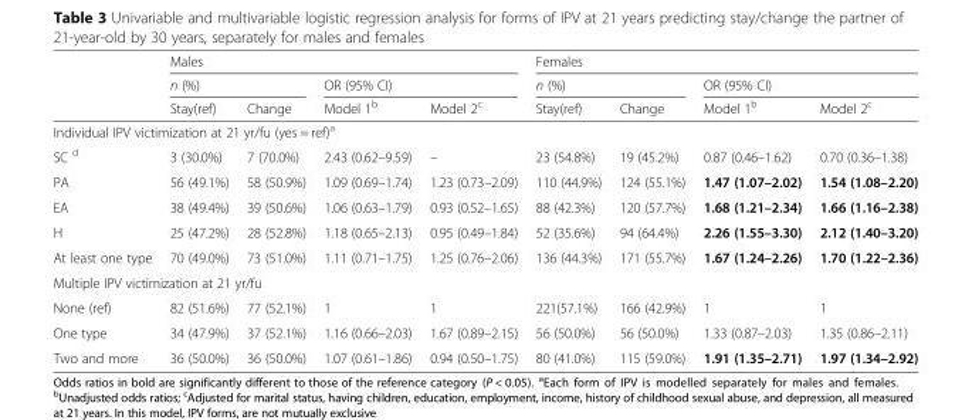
<table><thead><tr><td rowspan="3"></td><td colspan="4">Males</td><td colspan="4">Females</td></tr><tr><td colspan="2">n (%)</td><td colspan="2">OR (95% CI)</td><td colspan="2">n (%)</td><td colspan="2">OR (95% CI)</td></tr><tr><td>Stay(ref)</td><td>Change</td><td>Model 1<sup>b</sup></td><td>Model 2<sup>c</sup></td><td>Stay(ref)</td><td>Change</td><td>Model 1<sup>b</sup></td><td>Model 2<sup>c</sup></td></tr></thead><tbody><tr><td colspan="9">Individual IPV victimization at 21 yr/fu (yes = ref)<sup>a</sup></td></tr><tr><td>SC <sup>d</sup></td><td>3 (30.0%)</td><td>7 (70.0%)</td><td>2.43 (0.62–9.59)</td><td>–</td><td>23 (54.8%)</td><td>19 (45.2%)</td><td>0.87 (0.46–1.62)</td><td>0.70 (0.36–1.38)</td></tr><tr><td>PA</td><td>56 (49.1%)</td><td>58 (50.9%)</td><td>1.09 (0.69–1.74)</td><td>1.23 (0.73–2.09)</td><td>110 (44.9%)</td><td>124 (55.1%)</td><td>1.47 (1.07–2.02)</td><td>1.54 (1.08–2.20)</td></tr><tr><td>EA</td><td>38 (49.4%)</td><td>39 (50.6%)</td><td>1.06 (0.63–1.79)</td><td>0.93 (0.52–1.65)</td><td>88 (42.3%)</td><td>120 (57.7%)</td><td>1.68 (1.21–2.34)</td><td>1.66 (1.16–2.38)</td></tr><tr><td>H</td><td>25 (47.2%)</td><td>28 (52.8%)</td><td>1.18 (0.65–2.13)</td><td>0.95 (0.49–1.84)</td><td>52 (35.6%)</td><td>94 (64.4%)</td><td>2.26 (1.55–3.30)</td><td>2.12 (1.40–3.20)</td></tr><tr><td>At least one type</td><td>70 (49.0%)</td><td>73 (51.0%)</td><td>1.11 (0.71–1.75)</td><td>1.25 (0.76–2.06)</td><td>136 (44.3%)</td><td>171 (55.7%)</td><td>1.67 (1.24–2.26)</td><td>1.70 (1.22–2.36)</td></tr><tr><td colspan="9">Multiple IPV victimization at 21 yr/fu</td></tr><tr><td>None (ref)</td><td>82 (51.6%)</td><td>77 (52.1%)</td><td>1</td><td>1</td><td>221(57.1%)</td><td>166 (42.9%)</td><td>1</td><td>1</td></tr><tr><td>One type</td><td>34 (47.9%)</td><td>37 (52.1%)</td><td>1.16 (0.66–2.03)</td><td>1.67 (0.89–2.15)</td><td>56 (50.0%)</td><td>56 (50.0%)</td><td>1.33 (0.87–2.03)</td><td>1.35 (0.86–2.11)</td></tr><tr><td>Two and more</td><td>36 (50.0%)</td><td>36 (50.0%)</td><td>1.07 (0.61–1.86)</td><td>0.94 (0.50–1.75)</td><td>80 (41.0%)</td><td>115 (59.0%)</td><td>1.91 (1.35–2.71)</td><td>1.97 (1.34–2.92)</td></tr></tbody></table>